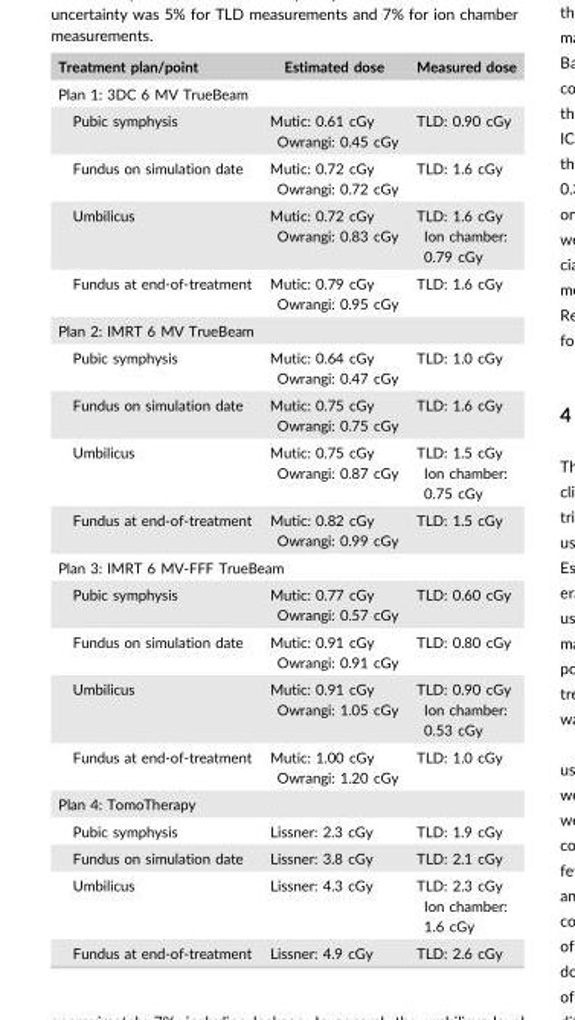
<table><thead><tr><td>Treatment plan/point</td><td>Estimated dose</td><td>Measured dose</td></tr></thead><tbody><tr><td colspan="3">Plan 1: 3DC 6 MV TrueBeam</td></tr><tr><td>Pubic symphysis</td><td>Mutic: 0.61 cGy Owrangi: 0.45 cGy</td><td>TLD: 0.90 cGy</td></tr><tr><td>Fundus on simulation date</td><td>Mutic: 0.72 cGy Owrangi: 0.72 cGy</td><td>TLD: 1.6 cGy</td></tr><tr><td>Umbilicus</td><td>Mutic: 0.72 cGy Owrangi: 0.83 cGy</td><td>TLD: 1.6 cGy Ion chamber: 0.79 cGy</td></tr><tr><td>Fundus at end-of-treatment</td><td>Mutic: 0.79 cGy Owrangi: 0.95 cGy</td><td>TLD: 1.6 cGy</td></tr><tr><td colspan="3">Plan 2: IMRT 6 MV TrueBeam</td></tr><tr><td>Pubic symphysis</td><td>Mutic: 0.64 cGy Owrangi: 0.47 cGy</td><td>TLD: 1.0 cGy</td></tr><tr><td>Fundus on simulation date</td><td>Mutic: 0.75 cGy Owrangi: 0.75 cGy</td><td>TLD: 1.6 cGy</td></tr><tr><td>Umbilicus</td><td>Mutic: 0.75 cGy Owrangi: 0.87 cGy</td><td>TLD: 1.5 cGy Ion chamber: 0.75 cGy</td></tr><tr><td>Fundus at end-of-treatment</td><td>Mutic: 0.82 cGy Owrangi: 0.99 cGy</td><td>TLD: 1.5 cGy</td></tr><tr><td colspan="3">Plan 3: IMRT 6 MV-FFF TrueBeam</td></tr><tr><td>Pubic symphysis</td><td>Mutic: 0.77 cGy Owrangi: 0.57 cGy</td><td>TLD: 0.60 cGy</td></tr><tr><td>Fundus on simulation date</td><td>Mutic: 0.91 cGy Owrangi: 0.91 cGy</td><td>TLD: 0.80 cGy</td></tr><tr><td>Umbilicus</td><td>Mutic: 0.91 cGy Owrangi: 1.05 cGy</td><td>TLD: 0.90 cGy Ion chamber: 0.53 cGy</td></tr><tr><td>Fundus at end-of-treatment</td><td>Mutic: 1.00 cGy Owrangi: 1.20 cGy</td><td>TLD: 1.0 cGy</td></tr><tr><td colspan="3">Plan 4: TomoTherapy</td></tr><tr><td>Pubic symphysis</td><td>Lissner: 2.3 cGy</td><td>TLD: 1.9 cGy</td></tr><tr><td>Fundus on simulation date</td><td>Lissner: 3.8 cGy</td><td>TLD: 2.1 cGy</td></tr><tr><td>Umbilicus</td><td>Lissner: 4.3 cGy</td><td>TLD: 2.3 cGy Ion chamber: 1.6 cGy</td></tr><tr><td>Fundus at end-of-treatment</td><td>Lissner: 4.9 cGy</td><td>TLD: 2.6 cGy</td></tr></tbody></table>